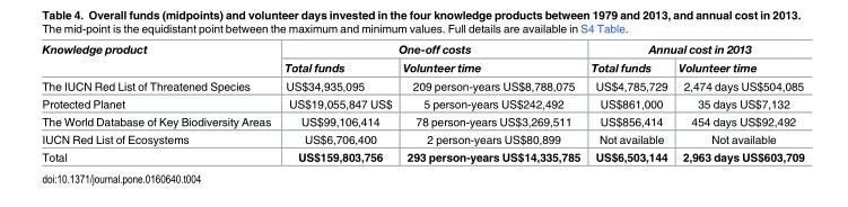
<table><thead><tr><td rowspan="2">Knowledge product</td><td colspan="2">One-off costs</td><td colspan="2">Annual cost in 2013</td></tr><tr><td>Total funds</td><td>Volunteer time</td><td>Total funds</td><td>Volunteer time</td></tr></thead><tbody><tr><td>The IUCN Red List of Threatened Species</td><td>US$34,935,095</td><td>209 person-years US$8,788,075</td><td>US$4,785,729</td><td>2,474 days US$504,085</td></tr><tr><td>Protected Planet</td><td>US$19,055,847 US$</td><td>5 person-years US$242,492</td><td>US$861,000</td><td>35 days US$7,132</td></tr><tr><td>The World Database of Key Biodiversity Areas</td><td>US$99,106,414</td><td>78 person-years US$3,269,511</td><td>US$856,414</td><td>454 days US$92,492</td></tr><tr><td>IUCN Red List of Ecosystems</td><td>US$6,706,400</td><td>2 person-years US$80,899</td><td>Not available</td><td>Not available</td></tr><tr><td>Total</td><td>US$159,803,756</td><td>293 person-years US$14,335,785</td><td>US$6,503,144</td><td>2,963 days US$603,709</td></tr></tbody></table>